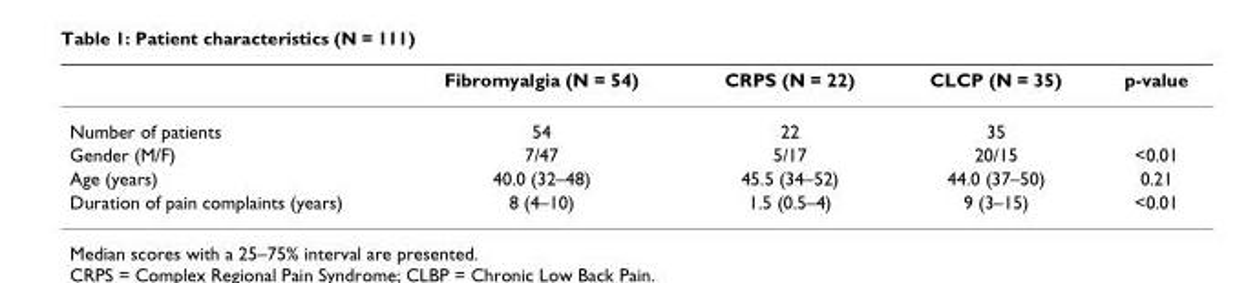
<table><thead><tr><td></td><td>Fibromyalgia (N = 54)</td><td>CRPS (N = 22)</td><td>CLCP (N = 35)</td><td>p-value</td></tr></thead><tbody><tr><td>Number of patients</td><td>54</td><td>22</td><td>35</td><td></td></tr><tr><td>Gender (M/F)</td><td>7/47</td><td>5/17</td><td>20/15</td><td>&lt;0.01</td></tr><tr><td>Age (years)</td><td>40.0 (32–48)</td><td>45.5 (34–52)</td><td>44.0 (37–50)</td><td>0.21</td></tr><tr><td>Duration of pain complaints (years)</td><td>8 (4–10)</td><td>1.5 (0.5–4)</td><td>9 (3–15)</td><td>&lt;0.01</td></tr></tbody></table>